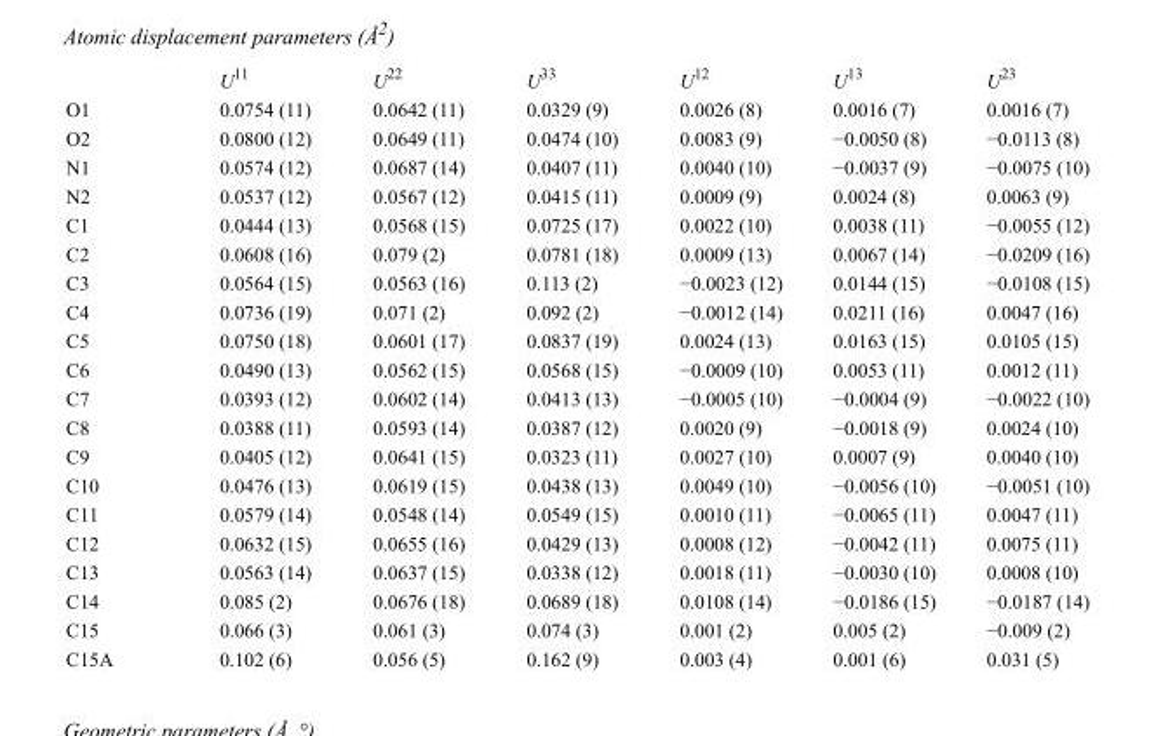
<table><thead><tr><td></td><td>U<sup>11</sup></td><td>U<sup>22</sup></td><td>U<sup>33</sup></td><td>U<sup>12</sup></td><td>U<sup>13</sup></td><td>U<sup>23</sup></td></tr></thead><tbody><tr><td>O1</td><td>0.0754 (11)</td><td>0.0642 (11)</td><td>0.0329 (9)</td><td>0.0026 (8)</td><td>0.0016 (7)</td><td>0.0016 (7)</td></tr><tr><td>O2</td><td>0.0800 (12)</td><td>0.0649 (11)</td><td>0.0474 (10)</td><td>0.0083 (9)</td><td>−0.0050 (8)</td><td>−0.0113 (8)</td></tr><tr><td>N1</td><td>0.0574 (12)</td><td>0.0687 (14)</td><td>0.0407 (11)</td><td>0.0040 (10)</td><td>−0.0037 (9)</td><td>−0.0075 (10)</td></tr><tr><td>N2</td><td>0.0537 (12)</td><td>0.0567 (12)</td><td>0.0415 (11)</td><td>0.0009 (9)</td><td>0.0024 (8)</td><td>0.0063 (9)</td></tr><tr><td>C1</td><td>0.0444 (13)</td><td>0.0568 (15)</td><td>0.0725 (17)</td><td>0.0022 (10)</td><td>0.0038 (11)</td><td>−0.0055 (12)</td></tr><tr><td>C2</td><td>0.0608 (16)</td><td>0.079 (2)</td><td>0.0781 (18)</td><td>0.0009 (13)</td><td>0.0067 (14)</td><td>−0.0209 (16)</td></tr><tr><td>C3</td><td>0.0564 (15)</td><td>0.0563 (16)</td><td>0.113 (2)</td><td>−0.0023 (12)</td><td>0.0144 (15)</td><td>−0.0108 (15)</td></tr><tr><td>C4</td><td>0.0736 (19)</td><td>0.071 (2)</td><td>0.092 (2)</td><td>−0.0012 (14)</td><td>0.0211 (16)</td><td>0.0047 (16)</td></tr><tr><td>C5</td><td>0.0750 (18)</td><td>0.0601 (17)</td><td>0.0837 (19)</td><td>0.0024 (13)</td><td>0.0163 (15)</td><td>0.0105 (15)</td></tr><tr><td>C6</td><td>0.0490 (13)</td><td>0.0562 (15)</td><td>0.0568 (15)</td><td>−0.0009 (10)</td><td>0.0053 (11)</td><td>0.0012 (11)</td></tr><tr><td>C7</td><td>0.0393 (12)</td><td>0.0602 (14)</td><td>0.0413 (13)</td><td>−0.0005 (10)</td><td>−0.0004 (9)</td><td>−0.0022 (10)</td></tr><tr><td>C8</td><td>0.0388 (11)</td><td>0.0593 (14)</td><td>0.0387 (12)</td><td>0.0020 (9)</td><td>−0.0018 (9)</td><td>0.0024 (10)</td></tr><tr><td>C9</td><td>0.0405 (12)</td><td>0.0641 (15)</td><td>0.0323 (11)</td><td>0.0027 (10)</td><td>0.0007 (9)</td><td>0.0040 (10)</td></tr><tr><td>C10</td><td>0.0476 (13)</td><td>0.0619 (15)</td><td>0.0438 (13)</td><td>0.0049 (10)</td><td>−0.0056 (10)</td><td>−0.0051 (10)</td></tr><tr><td>C11</td><td>0.0579 (14)</td><td>0.0548 (14)</td><td>0.0549 (15)</td><td>0.0010 (11)</td><td>−0.0065 (11)</td><td>0.0047 (11)</td></tr><tr><td>C12</td><td>0.0632 (15)</td><td>0.0655 (16)</td><td>0.0429 (13)</td><td>0.0008 (12)</td><td>−0.0042 (11)</td><td>0.0075 (11)</td></tr><tr><td>C13</td><td>0.0563 (14)</td><td>0.0637 (15)</td><td>0.0338 (12)</td><td>0.0018 (11)</td><td>−0.0030 (10)</td><td>0.0008 (10)</td></tr><tr><td>C14</td><td>0.085 (2)</td><td>0.0676 (18)</td><td>0.0689 (18)</td><td>0.0108 (14)</td><td>−0.0186 (15)</td><td>−0.0187 (14)</td></tr><tr><td>C15</td><td>0.066 (3)</td><td>0.061 (3)</td><td>0.074 (3)</td><td>0.001 (2)</td><td>0.005 (2)</td><td>−0.009 (2)</td></tr><tr><td>C15A</td><td>0.102 (6)</td><td>0.056 (5)</td><td>0.162 (9)</td><td>0.003 (4)</td><td>0.001 (6)</td><td>0.031 (5)</td></tr></tbody></table>